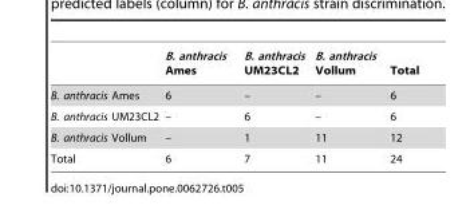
<table><thead><tr><td></td><td>B. anthracis Ames</td><td>B. anthracis UM23CL2</td><td>B. anthracis Vollum</td><td>Total</td></tr></thead><tbody><tr><td>B. anthracis Ames</td><td>6</td><td>–</td><td>–</td><td>6</td></tr><tr><td>B. anthracis UM23CL2</td><td>–</td><td>6</td><td>–</td><td>6</td></tr><tr><td>B. anthracis Vollum</td><td>–</td><td>1</td><td>11</td><td>12</td></tr><tr><td>Total</td><td>6</td><td>7</td><td>11</td><td>24</td></tr></tbody></table>